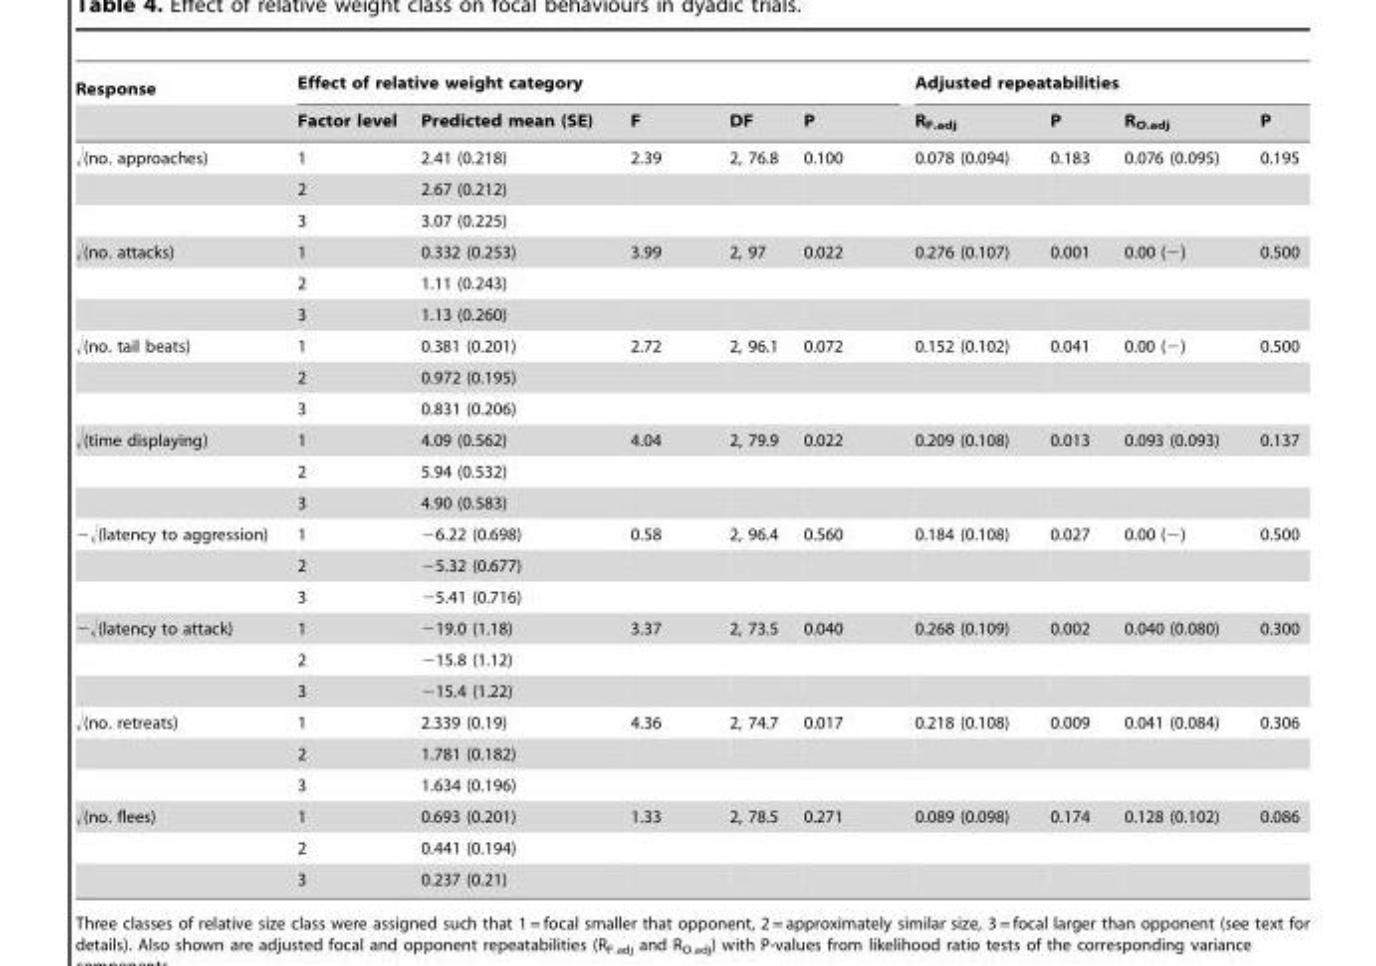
<table><thead><tr><td rowspan="2">Response</td><td colspan="5">Effect of relative weight category</td><td colspan="4">Adjusted repeatabilities</td></tr><tr><td>Factor level</td><td>Predicted mean (SE)</td><td>F</td><td>DF</td><td>P</td><td>R<sub>F.adj</sub></td><td>P</td><td>R<sub>O.adj</sub></td><td>P</td></tr></thead><tbody><tr><td rowspan="3">√(no. approaches)</td><td>1</td><td>2.41 (0.218)</td><td>2.39</td><td>2, 76.8</td><td>0.100</td><td>0.078 (0.094)</td><td>0.183</td><td>0.076 (0.095)</td><td>0.195</td></tr><tr><td>2</td><td>2.67 (0.212)</td><td></td><td></td><td></td><td></td><td></td><td></td><td></td></tr><tr><td>3</td><td>3.07 (0.225)</td><td></td><td></td><td></td><td></td><td></td><td></td><td></td></tr><tr><td rowspan="3">√(no. attacks)</td><td>1</td><td>0.332 (0.253)</td><td>3.99</td><td>2, 97</td><td>0.022</td><td>0.276 (0.107)</td><td>0.001</td><td>0.00 (−)</td><td>0.500</td></tr><tr><td>2</td><td>1.11 (0.243)</td><td></td><td></td><td></td><td></td><td></td><td></td><td></td></tr><tr><td>3</td><td>1.13 (0.260)</td><td></td><td></td><td></td><td></td><td></td><td></td><td></td></tr><tr><td rowspan="3">√(no. tail beats)</td><td>1</td><td>0.381 (0.201)</td><td>2.72</td><td>2, 96.1</td><td>0.072</td><td>0.152 (0.102)</td><td>0.041</td><td>0.00 (−)</td><td>0.500</td></tr><tr><td>2</td><td>0.972 (0.195)</td><td></td><td></td><td></td><td></td><td></td><td></td><td></td></tr><tr><td>3</td><td>0.831 (0.206)</td><td></td><td></td><td></td><td></td><td></td><td></td><td></td></tr><tr><td rowspan="3">√(time displaying)</td><td>1</td><td>4.09 (0.562)</td><td>4.04</td><td>2, 79.9</td><td>0.022</td><td>0.209 (0.108)</td><td>0.013</td><td>0.093 (0.093)</td><td>0.137</td></tr><tr><td>2</td><td>5.94 (0.532)</td><td></td><td></td><td></td><td></td><td></td><td></td><td></td></tr><tr><td>3</td><td>4.90 (0.583)</td><td></td><td></td><td></td><td></td><td></td><td></td><td></td></tr><tr><td rowspan="3">−√(latency to aggression)</td><td>1</td><td>−6.22 (0.698)</td><td>0.58</td><td>2, 96.4</td><td>0.560</td><td>0.184 (0.108)</td><td>0.027</td><td>0.00 (−)</td><td>0.500</td></tr><tr><td>2</td><td>−5.32 (0.677)</td><td></td><td></td><td></td><td></td><td></td><td></td><td></td></tr><tr><td>3</td><td>−5.41 (0.716)</td><td></td><td></td><td></td><td></td><td></td><td></td><td></td></tr><tr><td rowspan="3">−√(latency to attack)</td><td>1</td><td>−19.0 (1.18)</td><td>3.37</td><td>2, 73.5</td><td>0.040</td><td>0.268 (0.109)</td><td>0.002</td><td>0.040 (0.080)</td><td>0.300</td></tr><tr><td>2</td><td>−15.8 (1.12)</td><td></td><td></td><td></td><td></td><td></td><td></td><td></td></tr><tr><td>3</td><td>−15.4 (1.22)</td><td></td><td></td><td></td><td></td><td></td><td></td><td></td></tr><tr><td rowspan="3">√(no. retreats)</td><td>1</td><td>2.339 (0.19)</td><td>4.36</td><td>2, 74.7</td><td>0.017</td><td>0.218 (0.108)</td><td>0.009</td><td>0.041 (0.084)</td><td>0.306</td></tr><tr><td>2</td><td>1.781 (0.182)</td><td></td><td></td><td></td><td></td><td></td><td></td><td></td></tr><tr><td>3</td><td>1.634 (0.196)</td><td></td><td></td><td></td><td></td><td></td><td></td><td></td></tr><tr><td rowspan="3">√(no. flees)</td><td>1</td><td>0.693 (0.201)</td><td>1.33</td><td>2, 78.5</td><td>0.271</td><td>0.089 (0.098)</td><td>0.174</td><td>0.128 (0.102)</td><td>0.086</td></tr><tr><td>2</td><td>0.441 (0.194)</td><td></td><td></td><td></td><td></td><td></td><td></td><td></td></tr><tr><td>3</td><td>0.237 (0.21)</td><td></td><td></td><td></td><td></td><td></td><td></td><td></td></tr></tbody></table>